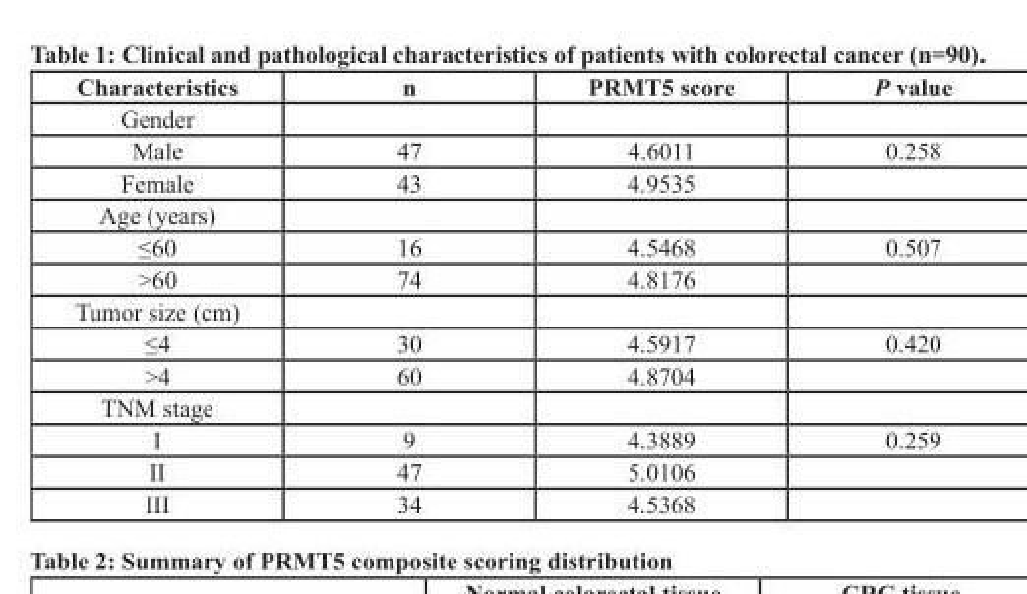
<table><thead><tr><td>Characteristics</td><td>n</td><td>PRMT5 score</td><td>P value</td></tr></thead><tbody><tr><td colspan="4">Gender</td></tr><tr><td>Male</td><td>47</td><td>4.6011</td><td>0.258</td></tr><tr><td>Female</td><td>43</td><td>4.9535</td><td></td></tr><tr><td colspan="4">Age (years)</td></tr><tr><td>≤60</td><td>16</td><td>4.5468</td><td>0.507</td></tr><tr><td>&gt;60</td><td>74</td><td>4.8176</td><td></td></tr><tr><td colspan="4">Tumor size (cm)</td></tr><tr><td>≤4</td><td>30</td><td>4.5917</td><td>0.420</td></tr><tr><td>&gt;4</td><td>60</td><td>4.8704</td><td></td></tr><tr><td colspan="4">TNM stage</td></tr><tr><td>I</td><td>9</td><td>4.3889</td><td>0.259</td></tr><tr><td>II</td><td>47</td><td>5.0106</td><td></td></tr><tr><td>III</td><td>34</td><td>4.5368</td><td></td></tr></tbody></table>